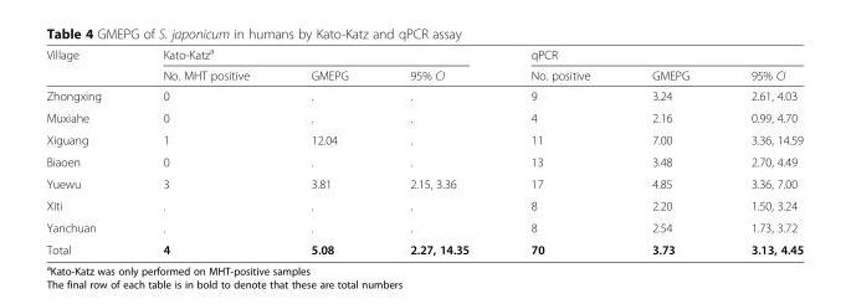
<table><thead><tr><td rowspan="2">Village</td><td colspan="3">Kato-Katz<sup>a</sup></td><td colspan="3">qPCR</td></tr><tr><td>No. MHT positive</td><td>GMEPG</td><td>95% CI</td><td>No. positive</td><td>GMEPG</td><td>95% CI</td></tr></thead><tbody><tr><td>Zhongxing</td><td>0</td><td>.</td><td>.</td><td>9</td><td>3.24</td><td>2.61, 4.03</td></tr><tr><td>Muxiahe</td><td>0</td><td>.</td><td>.</td><td>4</td><td>2.16</td><td>0.99, 4.70</td></tr><tr><td>Xiguang</td><td>1</td><td>12.04</td><td>.</td><td>11</td><td>7.00</td><td>3.36, 14.59</td></tr><tr><td>Biaoen</td><td>0</td><td>.</td><td>.</td><td>13</td><td>3.48</td><td>2.70, 4.49</td></tr><tr><td>Yuewu</td><td>3</td><td>3.81</td><td>2.15, 3.36</td><td>17</td><td>4.85</td><td>3.36, 7.00</td></tr><tr><td>Xiti</td><td>.</td><td>.</td><td>.</td><td>8</td><td>2.20</td><td>1.50, 3.24</td></tr><tr><td>Yanchuan</td><td>.</td><td>.</td><td>.</td><td>8</td><td>2.54</td><td>1.73, 3.72</td></tr><tr><td>Total</td><td>4</td><td>5.08</td><td>2.27, 14.35</td><td>70</td><td>3.73</td><td>3.13, 4.45</td></tr></tbody></table>